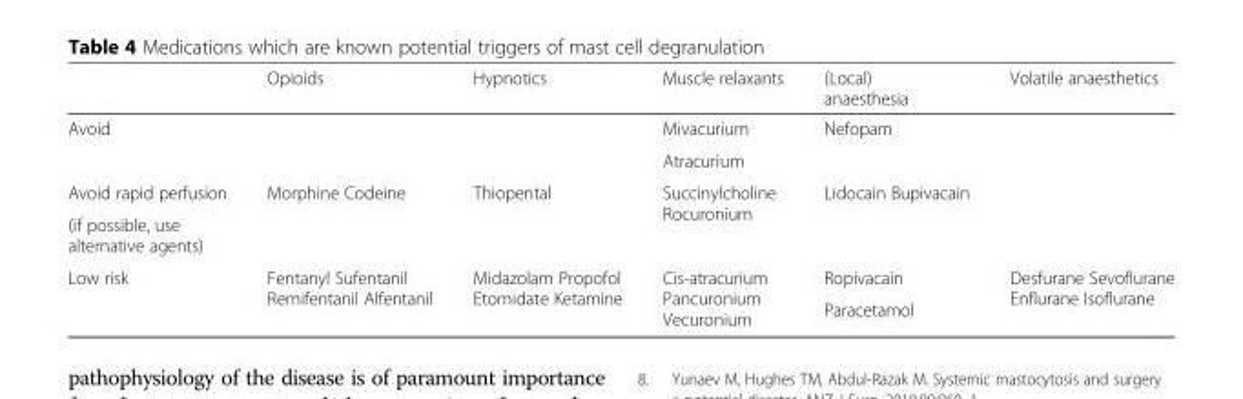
<table><thead><tr><td></td><td>Opioids</td><td>Hypnotics</td><td>Muscle relaxants</td><td>(Local) anaesthesia</td><td>Volatile anaesthetics</td></tr></thead><tbody><tr><td rowspan="2">Avoid</td><td rowspan="2"></td><td rowspan="2"></td><td>Mivacurium</td><td rowspan="2">Nefopam</td><td rowspan="2"></td></tr><tr><td>Atracurium</td></tr><tr><td>Avoid rapid perfusion</td><td rowspan="2">Morphine Codeine</td><td rowspan="2">Thiopental</td><td rowspan="2">Succinylcholine Rocuronium</td><td rowspan="2">Lidocain Bupivacain</td><td rowspan="2"></td></tr><tr><td>(if possible, use alternative agents)</td></tr><tr><td rowspan="2">Low risk</td><td rowspan="2">Fentanyl Sufentanil Remifentanil Alfentanil</td><td rowspan="2">Midazolam Propofol Etomidate Ketamine</td><td rowspan="2">Cis-atracurium Pancuronium Vecuronium</td><td>Ropivacain</td><td rowspan="2">Desfurane Sevoflurane Enflurane Isoflurane</td></tr><tr><td>Paracetamol</td></tr></tbody></table>